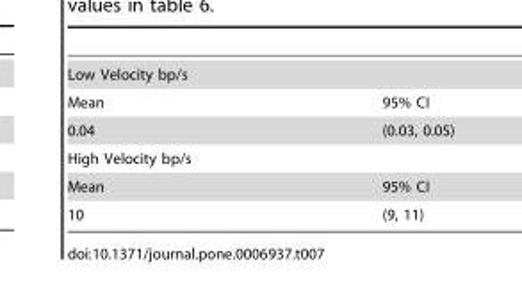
<table><tbody><tr><td colspan="2">Low Velocity bp/s</td></tr><tr><td>Mean</td><td>95% CI</td></tr><tr><td>0.04</td><td>(0.03, 0.05)</td></tr><tr><td colspan="2">High Velocity bp/s</td></tr><tr><td>Mean</td><td>95% CI</td></tr><tr><td>10</td><td>(9, 11)</td></tr></tbody></table>